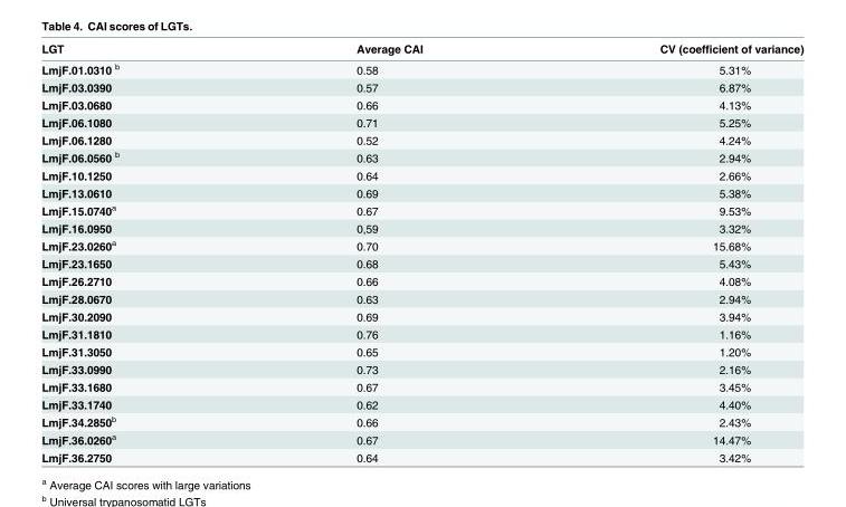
<table><thead><tr><td>LGT</td><td>Average CAI</td><td>CV (coefficient of variance)</td></tr></thead><tbody><tr><td>LmjF.01.0310 <sup>b</sup></td><td>0.58</td><td>5.31%</td></tr><tr><td>LmjF.03.0390</td><td>0.57</td><td>6.87%</td></tr><tr><td>LmjF.03.0680</td><td>0.66</td><td>4.13%</td></tr><tr><td>LmjF.06.1080</td><td>0.71</td><td>5.25%</td></tr><tr><td>LmjF.06.1280</td><td>0.52</td><td>4.24%</td></tr><tr><td>LmjF.06.0560 <sup>b</sup></td><td>0.63</td><td>2.94%</td></tr><tr><td>LmjF.10.1250</td><td>0.64</td><td>2.66%</td></tr><tr><td>LmjF.13.0610</td><td>0.69</td><td>5.38%</td></tr><tr><td>LmjF.15.0740<sup>a</sup></td><td>0.67</td><td>9.53%</td></tr><tr><td>LmjF.16.0950</td><td>0,59</td><td>3.32%</td></tr><tr><td>LmjF.23.0260<sup>a</sup></td><td>0.70</td><td>15.68%</td></tr><tr><td>LmjF.23.1650</td><td>0.68</td><td>5.43%</td></tr><tr><td>LmjF.26.2710</td><td>0.66</td><td>4.08%</td></tr><tr><td>LmjF.28.0670</td><td>0.63</td><td>2.94%</td></tr><tr><td>LmjF.30.2090</td><td>0.69</td><td>3.94%</td></tr><tr><td>LmjF.31.1810</td><td>0.76</td><td>1.16%</td></tr><tr><td>LmjF.31.3050</td><td>0.65</td><td>1.20%</td></tr><tr><td>LmjF.33.0990</td><td>0.73</td><td>2.16%</td></tr><tr><td>LmjF.33.1680</td><td>0.67</td><td>3.45%</td></tr><tr><td>LmjF.33.1740</td><td>0.62</td><td>4.40%</td></tr><tr><td>LmjF.34.2850<sup>b</sup></td><td>0.66</td><td>2.43%</td></tr><tr><td>LmjF.36.0260<sup>a</sup></td><td>0.67</td><td>14.47%</td></tr><tr><td>LmjF.36.2750</td><td>0.64</td><td>3.42%</td></tr></tbody></table>